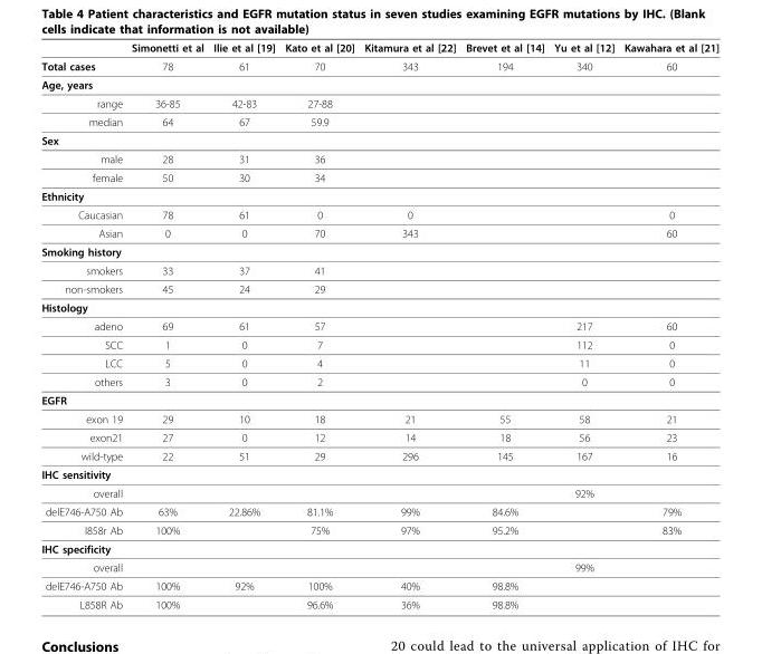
<table><thead><tr><td></td><td>Simonetti et al</td><td>Ilie et al [19]</td><td>Kato et al [20]</td><td>Kitamura et al [22]</td><td>Brevet et al [14]</td><td>Yu et al [12]</td><td>Kawahara et al [21]</td></tr></thead><tbody><tr><td>Total cases</td><td>78</td><td>61</td><td>70</td><td>343</td><td>194</td><td>340</td><td>60</td></tr><tr><td colspan="8">Age, years</td></tr><tr><td>range</td><td>36-85</td><td>42-83</td><td>27-88</td><td></td><td></td><td></td><td></td></tr><tr><td>median</td><td>64</td><td>67</td><td>59.9</td><td></td><td></td><td></td><td></td></tr><tr><td colspan="8">Sex</td></tr><tr><td>male</td><td>28</td><td>31</td><td>36</td><td></td><td></td><td></td><td></td></tr><tr><td>female</td><td>50</td><td>30</td><td>34</td><td></td><td></td><td></td><td></td></tr><tr><td colspan="8">Ethnicity</td></tr><tr><td>Caucasian</td><td>78</td><td>61</td><td>0</td><td>0</td><td></td><td></td><td>0</td></tr><tr><td>Asian</td><td>0</td><td>0</td><td>70</td><td>343</td><td></td><td></td><td>60</td></tr><tr><td colspan="8">Smoking history</td></tr><tr><td>smokers</td><td>33</td><td>37</td><td>41</td><td></td><td></td><td></td><td></td></tr><tr><td>non-smokers</td><td>45</td><td>24</td><td>29</td><td></td><td></td><td></td><td></td></tr><tr><td colspan="8">Histology</td></tr><tr><td>adeno</td><td>69</td><td>61</td><td>57</td><td></td><td></td><td>217</td><td>60</td></tr><tr><td>SCC</td><td>1</td><td>0</td><td>7</td><td></td><td></td><td>112</td><td>0</td></tr><tr><td>LCC</td><td>5</td><td>0</td><td>4</td><td></td><td></td><td>11</td><td>0</td></tr><tr><td>others</td><td>3</td><td>0</td><td>2</td><td></td><td></td><td>0</td><td>0</td></tr><tr><td colspan="8">EGFR</td></tr><tr><td>exon 19</td><td>29</td><td>10</td><td>18</td><td>21</td><td>55</td><td>58</td><td>21</td></tr><tr><td>exon21</td><td>27</td><td>0</td><td>12</td><td>14</td><td>18</td><td>56</td><td>23</td></tr><tr><td>wild-type</td><td>22</td><td>51</td><td>29</td><td>296</td><td>145</td><td>167</td><td>16</td></tr><tr><td colspan="8">IHC sensitivity</td></tr><tr><td>overall</td><td></td><td></td><td></td><td></td><td></td><td>92%</td><td></td></tr><tr><td>delE746-A750 Ab</td><td>63%</td><td>22.86%</td><td>81.1%</td><td>99%</td><td>84.6%</td><td></td><td>79%</td></tr><tr><td>l858r Ab</td><td>100%</td><td></td><td>75%</td><td>97%</td><td>95.2%</td><td></td><td>83%</td></tr><tr><td colspan="8">IHC specificity</td></tr><tr><td>overall</td><td></td><td></td><td></td><td></td><td></td><td>99%</td><td></td></tr><tr><td>delE746-A750 Ab</td><td>100%</td><td>92%</td><td>100%</td><td>40%</td><td>98.8%</td><td></td><td></td></tr><tr><td>L858R Ab</td><td>100%</td><td></td><td>96.6%</td><td>36%</td><td>98.8%</td><td></td><td></td></tr></tbody></table>